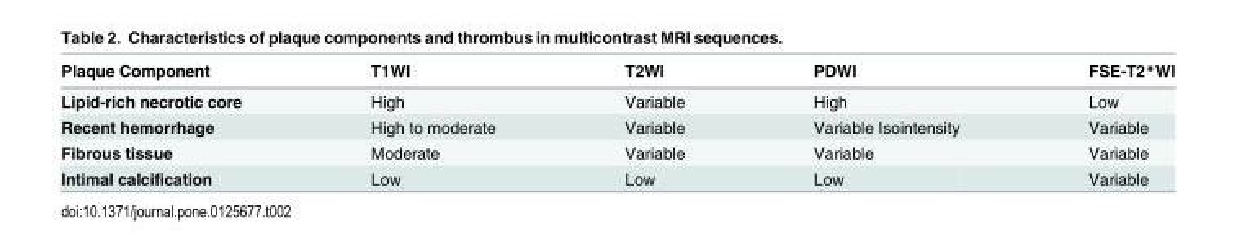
<table><thead><tr><td>Plaque Component</td><td>T1WI</td><td>T2WI</td><td>PDWI</td><td>FSE-T2*WI</td></tr></thead><tbody><tr><td>Lipid-rich necrotic core</td><td>High</td><td>Variable</td><td>High</td><td>Low</td></tr><tr><td>Recent hemorrhage</td><td>High to moderate</td><td>Variable</td><td>Variable Isointensity</td><td>Variable</td></tr><tr><td>Fibrous tissue</td><td>Moderate</td><td>Variable</td><td>Variable</td><td>Variable</td></tr><tr><td>Intimal calcification</td><td>Low</td><td>Low</td><td>Low</td><td>Variable</td></tr></tbody></table>